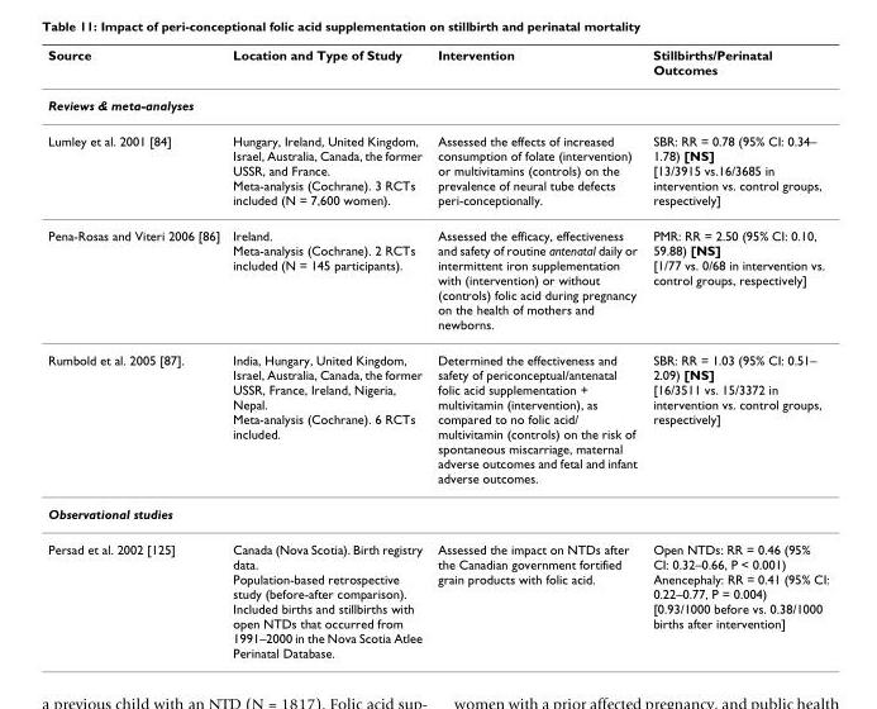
<table><thead><tr><td>Source</td><td>Location and Type of Study</td><td>Intervention</td><td>Stillbirths/Perinatal Outcomes</td></tr></thead><tbody><tr><td colspan="4">Reviews &amp; meta-analyses</td></tr><tr><td>Lumley et al. 2001 [84]</td><td>Hungary, Ireland, United Kingdom, Israel, Australia, Canada, the former USSR, and France. Meta-analysis (Cochrane). 3 RCTs included (N = 7,600 women).</td><td>Assessed the effects of increased consumption of folate (intervention) or multivitamins (controls) on the prevalence of neural tube defects peri-conceptionally.</td><td>SBR: RR = 0.78 (95% CI: 0.34– 1.78) [NS] [13/3915 vs.16/3685 in intervention vs. control groups, respectively]</td></tr><tr><td>Pena-Rosas and Viteri 2006 [86]</td><td>Ireland. Meta-analysis (Cochrane). 2 RCTs included (N = 145 participants).</td><td>Assessed the efficacy, effectiveness and safety of routine antenatal daily or intermittent iron supplementation with (intervention) or without (controls) folic acid during pregnancy on the health of mothers and newborns.</td><td>PMR: RR = 2.50 (95% CI: 0.10, 59.88) [NS] [1/77 vs. 0/68 in intervention vs. control groups, respectively]</td></tr><tr><td>Rumbold et al. 2005 [87].</td><td>India, Hungary, United Kingdom, Israel, Australia, Canada, the former USSR, France, Ireland, Nigeria, Nepal. Meta-analysis (Cochrane). 6 RCTs included.</td><td>Determined the effectiveness and safety of periconceptual/antenatal folic acid supplementation + multivitamin (intervention), as compared to no folic acid/ multivitamin (controls) on the risk of spontaneous miscarriage, maternal adverse outcomes and fetal and infant adverse outcomes.</td><td>SBR: RR = 1.03 (95% CI: 0.51– 2.09) [NS] [16/3511 vs. 15/3372 in intervention vs. control groups, respectively]</td></tr><tr><td colspan="4">Observational studies</td></tr><tr><td>Persad et al. 2002 [125]</td><td>Canada (Nova Scotia). Birth registry data. Population-based retrospective study (before-after comparison). Included births and stillbirths with open NTDs that occurred from 1991–2000 in the Nova Scotia Atlee Perinatal Database.</td><td>Assessed the impact on NTDs after the Canadian government fortified grain products with folic acid.</td><td>Open NTDs: RR = 0.46 (95% CI: 0.32–0.66, P &lt; 0.001) Anencephaly: RR = 0.41 (95% CI: 0.22–0.77, P = 0.004) [0.93/1000 before vs. 0.38/1000 births after intervention]</td></tr></tbody></table>